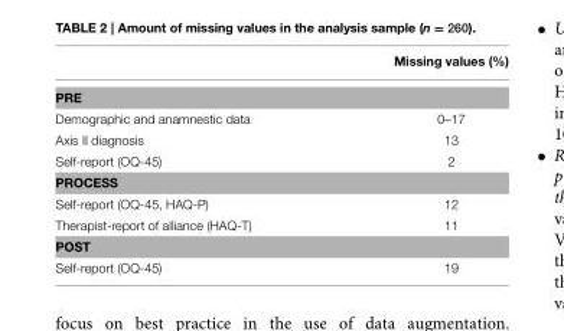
<table><thead><tr><td></td><td>Missing values (%)</td></tr></thead><tbody><tr><td colspan="2">PRE</td></tr><tr><td>Demographic and anamnestic data</td><td>0–17</td></tr><tr><td>Axis II diagnosis</td><td>13</td></tr><tr><td>Self-report (OQ-45)</td><td>2</td></tr><tr><td colspan="2">PROCESS</td></tr><tr><td>Self-report (OQ-45, HAQ-P)</td><td>12</td></tr><tr><td>Therapist-report of alliance (HAQ-T)</td><td>11</td></tr><tr><td colspan="2">POST</td></tr><tr><td>Self-report (OQ-45)</td><td>19</td></tr></tbody></table>